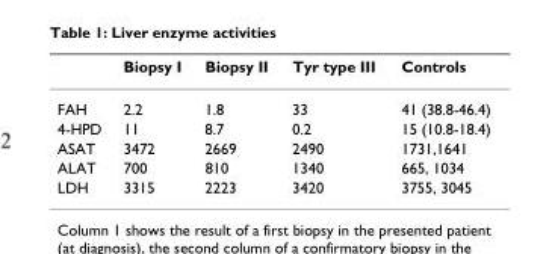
<table><thead><tr><td></td><td>Biopsy I</td><td>Biopsy II</td><td>Tyr type III</td><td>Controls</td></tr></thead><tbody><tr><td>FAH</td><td>2.2</td><td>1.8</td><td>33</td><td>41 (38.8-46.4)</td></tr><tr><td>4-HPD</td><td>11</td><td>8.7</td><td>0.2</td><td>15 (10.8-18.4)</td></tr><tr><td>ASAT</td><td>3472</td><td>2669</td><td>2490</td><td>1731,1641</td></tr><tr><td>ALAT</td><td>700</td><td>810</td><td>1340</td><td>665, 1034</td></tr><tr><td>LDH</td><td>3315</td><td>2223</td><td>3420</td><td>3755, 3045</td></tr></tbody></table>